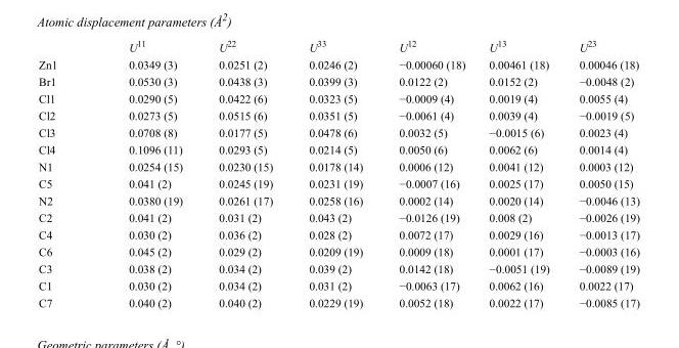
<table><thead><tr><td></td><td>U<sup>11</sup></td><td>U<sup>22</sup></td><td>U<sup>33</sup></td><td>U<sup>12</sup></td><td>U<sup>13</sup></td><td>U<sup>23</sup></td></tr></thead><tbody><tr><td>Zn1</td><td>0.0349 (3)</td><td>0.0251 (2)</td><td>0.0246 (2)</td><td>−0.00060 (18)</td><td>0.00461 (18)</td><td>0.00046 (18)</td></tr><tr><td>Br1</td><td>0.0530 (3)</td><td>0.0438 (3)</td><td>0.0399 (3)</td><td>0.0122 (2)</td><td>0.0152 (2)</td><td>−0.0048 (2)</td></tr><tr><td>Cl1</td><td>0.0290 (5)</td><td>0.0422 (6)</td><td>0.0323 (5)</td><td>−0.0009 (4)</td><td>0.0019 (4)</td><td>0.0055 (4)</td></tr><tr><td>Cl2</td><td>0.0273 (5)</td><td>0.0515 (6)</td><td>0.0351 (5)</td><td>−0.0061 (4)</td><td>0.0039 (4)</td><td>−0.0019 (5)</td></tr><tr><td>Cl3</td><td>0.0708 (8)</td><td>0.0177 (5)</td><td>0.0478 (6)</td><td>0.0032 (5)</td><td>−0.0015 (6)</td><td>0.0023 (4)</td></tr><tr><td>Cl4</td><td>0.1096 (11)</td><td>0.0293 (5)</td><td>0.0214 (5)</td><td>0.0050 (6)</td><td>0.0062 (6)</td><td>0.0014 (4)</td></tr><tr><td>N1</td><td>0.0254 (15)</td><td>0.0230 (15)</td><td>0.0178 (14)</td><td>0.0006 (12)</td><td>0.0041 (12)</td><td>0.0003 (12)</td></tr><tr><td>C5</td><td>0.041 (2)</td><td>0.0245 (19)</td><td>0.0231 (19)</td><td>−0.0007 (16)</td><td>0.0025 (17)</td><td>0.0050 (15)</td></tr><tr><td>N2</td><td>0.0380 (19)</td><td>0.0261 (17)</td><td>0.0258 (16)</td><td>0.0002 (14)</td><td>0.0020 (14)</td><td>−0.0046 (13)</td></tr><tr><td>C2</td><td>0.041 (2)</td><td>0.031 (2)</td><td>0.043 (2)</td><td>−0.0126 (19)</td><td>0.008 (2)</td><td>−0.0026 (19)</td></tr><tr><td>C4</td><td>0.030 (2)</td><td>0.036 (2)</td><td>0.028 (2)</td><td>0.0072 (17)</td><td>0.0029 (16)</td><td>−0.0013 (17)</td></tr><tr><td>C6</td><td>0.045 (2)</td><td>0.029 (2)</td><td>0.0209 (19)</td><td>0.0009 (18)</td><td>0.0001 (17)</td><td>−0.0003 (16)</td></tr><tr><td>C3</td><td>0.038 (2)</td><td>0.034 (2)</td><td>0.039 (2)</td><td>0.0142 (18)</td><td>−0.0051 (19)</td><td>−0.0089 (19)</td></tr><tr><td>C1</td><td>0.030 (2)</td><td>0.034 (2)</td><td>0.031 (2)</td><td>−0.0063 (17)</td><td>0.0062 (16)</td><td>0.0022 (17)</td></tr><tr><td>C7</td><td>0.040 (2)</td><td>0.040 (2)</td><td>0.0229 (19)</td><td>0.0052 (18)</td><td>0.0022 (17)</td><td>−0.0085 (17)</td></tr></tbody></table>